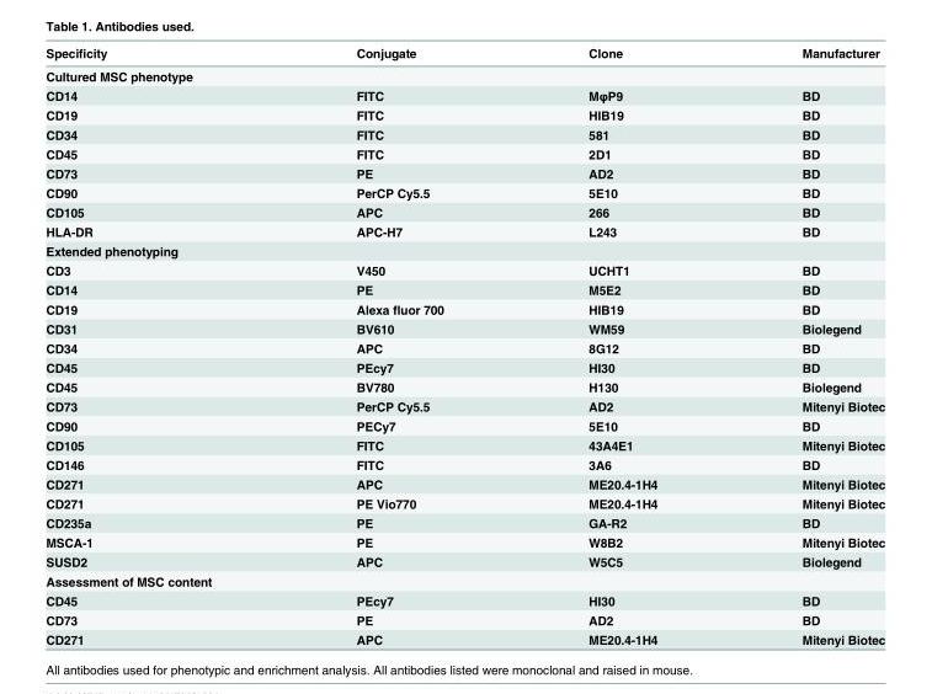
<table><thead><tr><td>Specificity</td><td>Conjugate</td><td>Clone</td><td>Manufacturer</td></tr></thead><tbody><tr><td colspan="4">Cultured MSC phenotype</td></tr><tr><td>CD14</td><td>FITC</td><td>MφP9</td><td>BD</td></tr><tr><td>CD19</td><td>FITC</td><td>HIB19</td><td>BD</td></tr><tr><td>CD34</td><td>FITC</td><td>581</td><td>BD</td></tr><tr><td>CD45</td><td>FITC</td><td>2D1</td><td>BD</td></tr><tr><td>CD73</td><td>PE</td><td>AD2</td><td>BD</td></tr><tr><td>CD90</td><td>PerCP Cy5.5</td><td>5E10</td><td>BD</td></tr><tr><td>CD105</td><td>APC</td><td>266</td><td>BD</td></tr><tr><td>HLA-DR</td><td>APC-H7</td><td>L243</td><td>BD</td></tr><tr><td colspan="4">Extended phenotyping</td></tr><tr><td>CD3</td><td>V450</td><td>UCHT1</td><td>BD</td></tr><tr><td>CD14</td><td>PE</td><td>M5E2</td><td>BD</td></tr><tr><td>CD19</td><td>Alexa fluor 700</td><td>HIB19</td><td>BD</td></tr><tr><td>CD31</td><td>BV610</td><td>WM59</td><td>Biolegend</td></tr><tr><td>CD34</td><td>APC</td><td>8G12</td><td>BD</td></tr><tr><td>CD45</td><td>PEcy7</td><td>HI30</td><td>BD</td></tr><tr><td>CD45</td><td>BV780</td><td>H130</td><td>Biolegend</td></tr><tr><td>CD73</td><td>PerCP Cy5.5</td><td>AD2</td><td>Mitenyi Biotec</td></tr><tr><td>CD90</td><td>PECy7</td><td>5E10</td><td>BD</td></tr><tr><td>CD105</td><td>FITC</td><td>43A4E1</td><td>Mitenyi Biotec</td></tr><tr><td>CD146</td><td>FITC</td><td>3A6</td><td>BD</td></tr><tr><td>CD271</td><td>APC</td><td>ME20.4-1H4</td><td>Mitenyi Biotec</td></tr><tr><td>CD271</td><td>PE Vio770</td><td>ME20.4-1H4</td><td>Mitenyi Biotec</td></tr><tr><td>CD235a</td><td>PE</td><td>GA-R2</td><td>BD</td></tr><tr><td>MSCA-1</td><td>PE</td><td>W8B2</td><td>Mitenyi Biotec</td></tr><tr><td>SUSD2</td><td>APC</td><td>W5C5</td><td>Biolegend</td></tr><tr><td colspan="4">Assessment of MSC content</td></tr><tr><td>CD45</td><td>PEcy7</td><td>HI30</td><td>BD</td></tr><tr><td>CD73</td><td>PE</td><td>AD2</td><td>BD</td></tr><tr><td>CD271</td><td>APC</td><td>ME20.4-1H4</td><td>Mitenyi Biotec</td></tr></tbody></table>